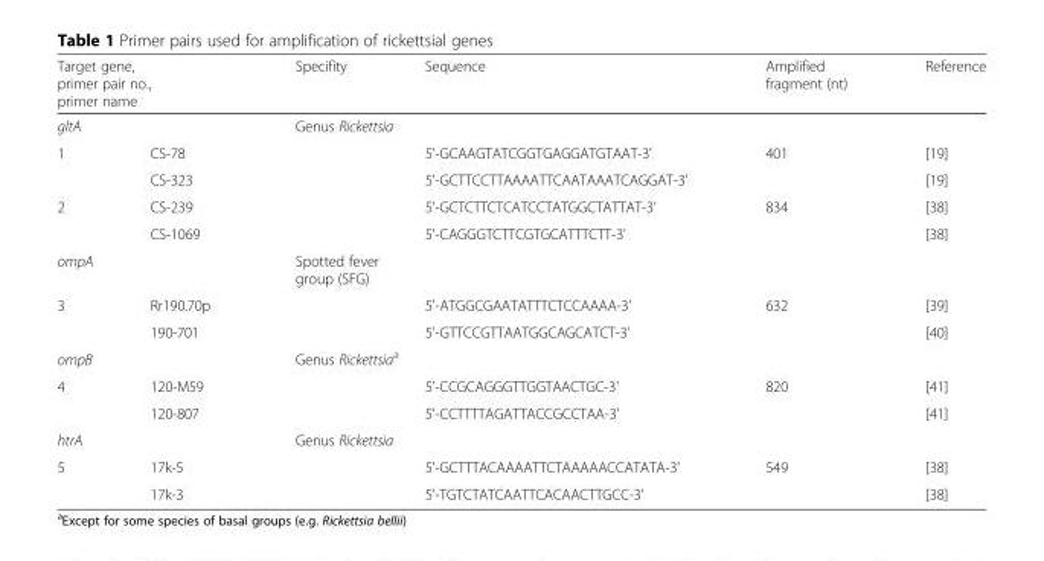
<table><thead><tr><td rowspan="2" colspan="2">Target gene, primer pair no., primer name gltA</td><td>Specifity</td><td>Sequence</td><td>Amplified fragment (nt)</td><td>Reference</td></tr><tr><td colspan="4">Genus Rickettsia</td></tr><tr><td>1</td><td>CS-78</td><td></td><td>5&#x27;-GCAAGTATCGGTGAGGATGTAAT-3&#x27;</td><td>401</td><td>[19]</td></tr></thead><tbody><tr><td></td><td>CS-323</td><td></td><td>5&#x27;-GCTTCCTTAAAATTCAATAAATCAGGAT-3&#x27;</td><td></td><td>[19]</td></tr><tr><td rowspan="2">2</td><td>CS-239</td><td></td><td>5&#x27;-GCTCTTCTCATCCTATGGCTATTAT-3&#x27;</td><td>834</td><td>[38]</td></tr><tr><td>CS-1069</td><td></td><td>5&#x27;-CAGGGTCTTCGTGCATTTCTT-3&#x27;</td><td></td><td>[38]</td></tr><tr><td colspan="2">ompA</td><td colspan="4">Spotted fever group (SFG)</td></tr><tr><td rowspan="2">3</td><td>Rr190.70p</td><td></td><td>5&#x27;-ATGGCGAATATTTCTCCAAAA-3&#x27;</td><td>632</td><td>[39]</td></tr><tr><td>190-701</td><td></td><td>5&#x27;-GTTCCGTTAATGGCAGCATCT-3&#x27;</td><td></td><td>[40]</td></tr><tr><td colspan="2">ompB</td><td colspan="4">Genus Rickettsia<sup>a</sup></td></tr><tr><td rowspan="2">4</td><td>120-M59</td><td></td><td>5&#x27;-CCGCAGGGTTGGTAACTGC-3&#x27;</td><td>820</td><td>[41]</td></tr><tr><td>120-807</td><td></td><td>5&#x27;-CCTTTTAGATTACCGCCTAA-3&#x27;</td><td></td><td>[41]</td></tr><tr><td colspan="2">htrA</td><td colspan="4">Genus Rickettsia</td></tr><tr><td rowspan="2">5</td><td>17k-5</td><td></td><td>5&#x27;-GCTTTACAAAATTCTAAAAACCATATA-3&#x27;</td><td>549</td><td>[38]</td></tr><tr><td>17k-3</td><td></td><td>5&#x27;-TGTCTATCAATTCACAACTTGCC-3&#x27;</td><td></td><td>[38]</td></tr></tbody></table>